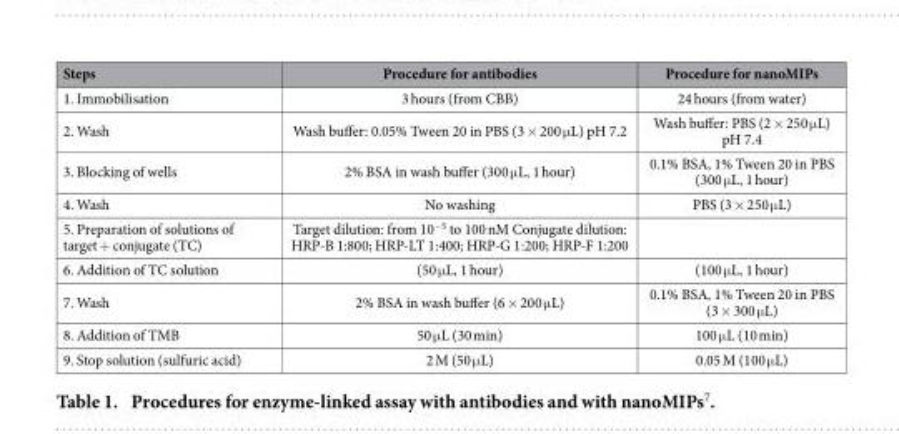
<table><thead><tr><td>Steps</td><td>Procedure for antibodies</td><td>Procedure for nanoMIPs</td></tr></thead><tbody><tr><td>1. Immobilisation</td><td>3 hours (from CBB)</td><td>24 hours (from water)</td></tr><tr><td>2. Wash</td><td>Wash buffer: 0.05% Tween 20 in PBS (3 × 200 μ L) pH 7.2</td><td>Wash buffer: PBS (2 × 250 μ L) pH 7.4</td></tr><tr><td>3. Blocking of wells</td><td>2% BSA in wash buffer (300 μ L, 1 hour)</td><td>0.1% BSA, 1% Tween 20 in PBS (300 μ L, 1 hour)</td></tr><tr><td>4. Wash</td><td>No washing</td><td>PBS (3 × 250 μ L)</td></tr><tr><td>5. Preparation of solutions of target + conjugate (TC)</td><td>Target dilution: from 10<sup>−5</sup> to 100 nM Conjugate dilution: HRP-B 1:800; HRP-LT 1:400; HRP-G 1:200; HRP-F 1:200</td><td></td></tr><tr><td>6. Addition of TC solution</td><td>(50 μ L, 1 hour)</td><td>(100 μ L, 1 hour)</td></tr><tr><td>7. Wash</td><td>2% BSA in wash buffer (6 × 200 μ L)</td><td>0.1% BSA, 1% Tween 20 in PBS (3 × 300 μ L)</td></tr><tr><td>8. Addition of TMB</td><td>50 μ L (30 min)</td><td>100 μ L (10 min)</td></tr><tr><td>9. Stop solution (sulfuric acid)</td><td>2 M (50 μ L)</td><td>0.05 M (100 μ L)</td></tr></tbody></table>